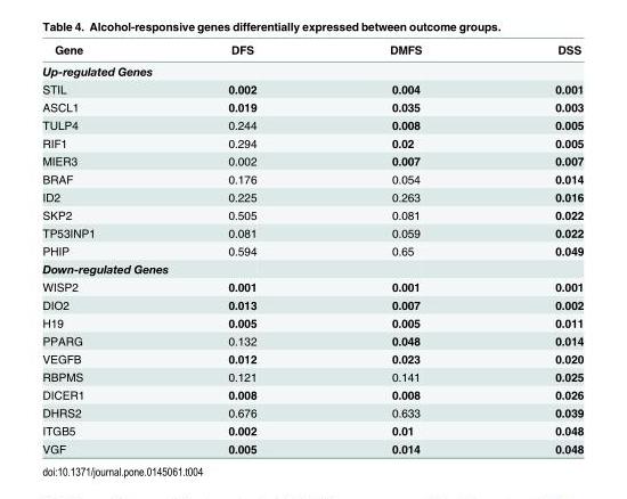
<table><thead><tr><td>Gene</td><td>DFS</td><td>DMFS</td><td>DSS</td></tr></thead><tbody><tr><td colspan="4">Up-regulated Genes</td></tr><tr><td>STIL</td><td>0.002</td><td>0.004</td><td>0.001</td></tr><tr><td>ASCL1</td><td>0.019</td><td>0.035</td><td>0.003</td></tr><tr><td>TULP4</td><td>0.244</td><td>0.008</td><td>0.005</td></tr><tr><td>RIF1</td><td>0.294</td><td>0.02</td><td>0.005</td></tr><tr><td>MIER3</td><td>0.002</td><td>0.007</td><td>0.007</td></tr><tr><td>BRAF</td><td>0.176</td><td>0.054</td><td>0.014</td></tr><tr><td>ID2</td><td>0.225</td><td>0.263</td><td>0.016</td></tr><tr><td>SKP2</td><td>0.505</td><td>0.081</td><td>0.022</td></tr><tr><td>TP53INP1</td><td>0.081</td><td>0.059</td><td>0.022</td></tr><tr><td>PHIP</td><td>0.594</td><td>0.65</td><td>0.049</td></tr><tr><td colspan="4">Down-regulated Genes</td></tr><tr><td>WISP2</td><td>0.001</td><td>0.001</td><td>0.001</td></tr><tr><td>DIO2</td><td>0.013</td><td>0.007</td><td>0.002</td></tr><tr><td>H19</td><td>0.005</td><td>0.005</td><td>0.011</td></tr><tr><td>PPARG</td><td>0.132</td><td>0.048</td><td>0.014</td></tr><tr><td>VEGFB</td><td>0.012</td><td>0.023</td><td>0.020</td></tr><tr><td>RBPMS</td><td>0.121</td><td>0.141</td><td>0.025</td></tr><tr><td>DICER1</td><td>0.008</td><td>0.008</td><td>0.026</td></tr><tr><td>DHRS2</td><td>0.676</td><td>0.633</td><td>0.039</td></tr><tr><td>ITGB5</td><td>0.002</td><td>0.01</td><td>0.048</td></tr><tr><td>VGF</td><td>0.005</td><td>0.014</td><td>0.048</td></tr></tbody></table>